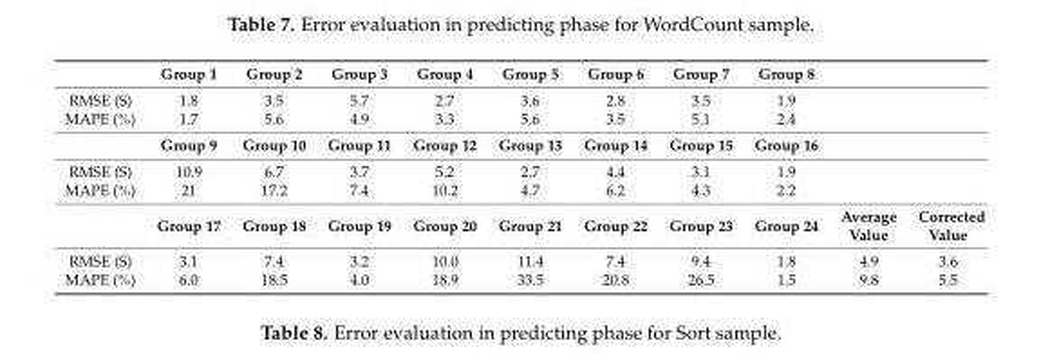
<table><thead><tr><td></td><td>Group 1</td><td>Group 2</td><td>Group 3</td><td>Group 4</td><td>Group 5</td><td>Group 6</td><td>Group 7</td><td>Group 8</td><td></td><td></td></tr></thead><tbody><tr><td>RMSE (S)</td><td>1.8</td><td>3.5</td><td>5.7</td><td>2.7</td><td>3.6</td><td>2.8</td><td>3.5</td><td>1.9</td><td></td><td></td></tr><tr><td rowspan="2">MAPE (%)</td><td>1.7</td><td>5.6</td><td>4.9</td><td>3.3</td><td>5.6</td><td>3.5</td><td>5.1</td><td>2.4</td><td></td><td></td></tr><tr><td>Group 9</td><td>Group 10</td><td>Group 11</td><td>Group 12</td><td>Group 13</td><td>Group 14</td><td>Group 15</td><td>Group 16</td><td></td><td></td></tr><tr><td>RMSE (S)</td><td>10.9</td><td>6.7</td><td>3.7</td><td>5.2</td><td>2.7</td><td>4.4</td><td>3.1</td><td>1.9</td><td></td><td></td></tr><tr><td rowspan="2">MAPE (%)</td><td>21</td><td>17.2</td><td>7.4</td><td>10.2</td><td>4.7</td><td>6.2</td><td>4.3</td><td>2.2</td><td></td><td></td></tr><tr><td>Group 17</td><td>Group 18</td><td>Group 19</td><td>Group 20</td><td>Group 21</td><td>Group 22</td><td>Group 23</td><td>Group 24</td><td>Average Value</td><td>Corrected Value</td></tr><tr><td>RMSE (S)</td><td>3.1</td><td>7.4</td><td>3.2</td><td>10.0</td><td>11.4</td><td>7.4</td><td>9.4</td><td>1.8</td><td>4.9</td><td>3.6</td></tr><tr><td>MAPE (%)</td><td>6.0</td><td>18.5</td><td>4.0</td><td>18.9</td><td>33.5</td><td>20.8</td><td>26.5</td><td>1.5</td><td>9.8</td><td>5.5</td></tr></tbody></table>